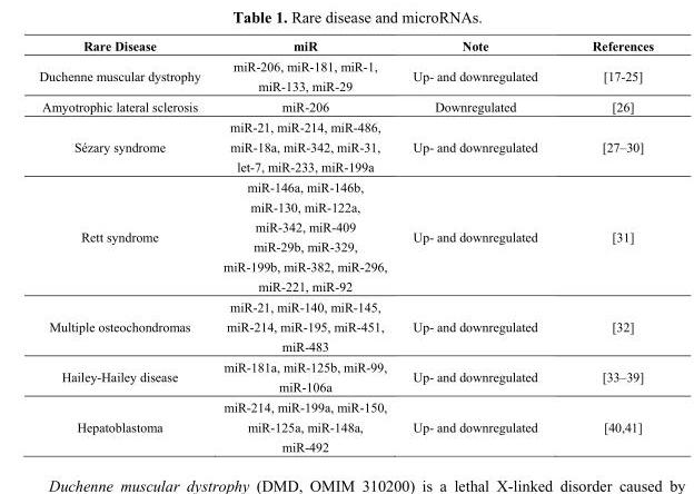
<table><thead><tr><td>Rare Disease</td><td>miR</td><td>Note</td><td>References</td></tr></thead><tbody><tr><td>Duchenne muscular dystrophy</td><td>miR-206, miR-181, miR-1, miR-133, miR-29</td><td>Up- and downregulated</td><td>[17-25]</td></tr><tr><td>Amyotrophic lateral sclerosis</td><td>miR-206</td><td>Downregulated</td><td>[26]</td></tr><tr><td>Sézary syndrome</td><td>miR-21, miR-214, miR-486, miR-18a, miR-342, miR-31, let-7, miR-233, miR-199a</td><td>Up- and downregulated</td><td>[27–30]</td></tr><tr><td>Rett syndrome</td><td>miR-146a, miR-146b, miR-130, miR-122a, miR-342, miR-409 miR-29b, miR-329, miR-199b, miR-382, miR-296, miR-221, miR-92</td><td>Up- and downregulated</td><td>[31]</td></tr><tr><td>Multiple osteochondromas</td><td>miR-21, miR-140, miR-145, miR-214, miR-195, miR-451, miR-483</td><td>Up- and downregulated</td><td>[32]</td></tr><tr><td>Hailey-Hailey disease</td><td>miR-181a, miR-125b, miR-99, miR-106a</td><td>Up- and downregulated</td><td>[33–39]</td></tr><tr><td>Hepatoblastoma</td><td>miR-214, miR-199a, miR-150, miR-125a, miR-148a, miR-492</td><td>Up- and downregulated</td><td>[40,41]</td></tr></tbody></table>